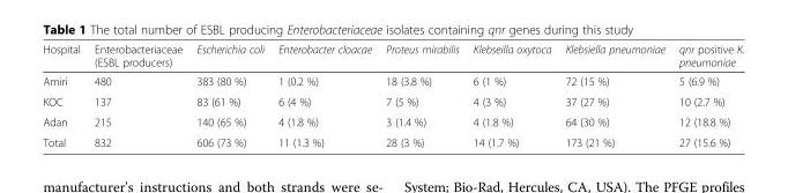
<table><thead><tr><td>Hospital</td><td>Enterobacteriaceae (ESBL producers)</td><td>Escherichia coli</td><td>Enterobacter cloacae</td><td>Proteus mirabilis</td><td>Klebseilla oxytoca</td><td>Klebsiella pneumoniae</td><td>qnr positive K. pneumoniae</td></tr></thead><tbody><tr><td>Amiri</td><td>480</td><td>383 (80 %)</td><td>1 (0.2 %)</td><td>18 (3.8 %)</td><td>6 (1 %)</td><td>72 (15 %)</td><td>5 (6.9 %)</td></tr><tr><td>KOC</td><td>137</td><td>83 (61 %)</td><td>6 (4 %)</td><td>7 (5 %)</td><td>4 (3 %)</td><td>37 (27 %)</td><td>10 (2.7 %)</td></tr><tr><td>Adan</td><td>215</td><td>140 (65 %)</td><td>4 (1.8 %)</td><td>3 (1.4 %)</td><td>4 (1.8 %)</td><td>64 (30 %)</td><td>12 (18.8 %)</td></tr><tr><td>Total</td><td>832</td><td>606 (73 %)</td><td>11 (1.3 %)</td><td>28 (3 %)</td><td>14 (1.7 %)</td><td>173 (21 %)</td><td>27 (15.6 %)</td></tr></tbody></table>